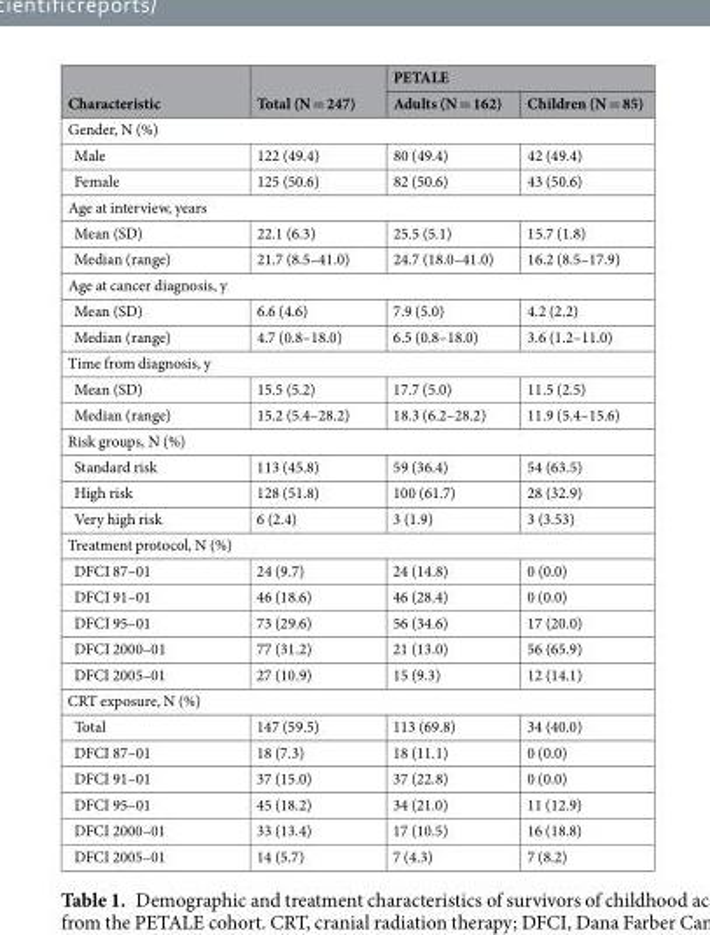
<table><thead><tr><td rowspan="2">Characteristic</td><td rowspan="2">Total (N = 247)</td><td colspan="2">PETALE</td></tr><tr><td>Adults (N = 162)</td><td>Children (N = 85)</td></tr></thead><tbody><tr><td colspan="4">Gender, N (%)</td></tr><tr><td>Male</td><td>122 (49.4)</td><td>80 (49.4)</td><td>42 (49.4)</td></tr><tr><td>Female</td><td>125 (50.6)</td><td>82 (50.6)</td><td>43 (50.6)</td></tr><tr><td colspan="4">Age at interview, years</td></tr><tr><td>Mean (SD)</td><td>22.1 (6.3)</td><td>25.5 (5.1)</td><td>15.7 (1.8)</td></tr><tr><td>Median (range)</td><td>21.7 (8.5–41.0)</td><td>24.7 (18.0–41.0)</td><td>16.2 (8.5–17.9)</td></tr><tr><td colspan="4">Age at cancer diagnosis, y</td></tr><tr><td>Mean (SD)</td><td>6.6 (4.6)</td><td>7.9 (5.0)</td><td>4.2 (2.2)</td></tr><tr><td>Median (range)</td><td>4.7 (0.8–18.0)</td><td>6.5 (0.8–18.0)</td><td>3.6 (1.2–11.0)</td></tr><tr><td colspan="4">Time from diagnosis, y</td></tr><tr><td>Mean (SD)</td><td>15.5 (5.2)</td><td>17.7 (5.0)</td><td>11.5 (2.5)</td></tr><tr><td>Median (range)</td><td>15.2 (5.4–28.2)</td><td>18.3 (6.2–28.2)</td><td>11.9 (5.4–15.6)</td></tr><tr><td colspan="4">Risk groups, N (%)</td></tr><tr><td>Standard risk</td><td>113 (45.8)</td><td>59 (36.4)</td><td>54 (63.5)</td></tr><tr><td>High risk</td><td>128 (51.8)</td><td>100 (61.7)</td><td>28 (32.9)</td></tr><tr><td>Very high risk</td><td>6 (2.4)</td><td>3 (1.9)</td><td>3 (3.53)</td></tr><tr><td colspan="4">Treatment protocol, N (%)</td></tr><tr><td>DFCI 87–01</td><td>24 (9.7)</td><td>24 (14.8)</td><td>0 (0.0)</td></tr><tr><td>DFCI 91–01</td><td>46 (18.6)</td><td>46 (28.4)</td><td>0 (0.0)</td></tr><tr><td>DFCI 95–01</td><td>73 (29.6)</td><td>56 (34.6)</td><td>17 (20.0)</td></tr><tr><td>DFCI 2000–01</td><td>77 (31.2)</td><td>21 (13.0)</td><td>56 (65.9)</td></tr><tr><td>DFCI 2005–01</td><td>27 (10.9)</td><td>15 (9.3)</td><td>12 (14.1)</td></tr><tr><td colspan="4">CRT exposure, N (%)</td></tr><tr><td>Total</td><td>147 (59.5)</td><td>113 (69.8)</td><td>34 (40.0)</td></tr><tr><td>DFCI 87–01</td><td>18 (7.3)</td><td>18 (11.1)</td><td>0 (0.0)</td></tr><tr><td>DFCI 91–01</td><td>37 (15.0)</td><td>37 (22.8)</td><td>0 (0.0)</td></tr><tr><td>DFCI 95–01</td><td>45 (18.2)</td><td>34 (21.0)</td><td>11 (12.9)</td></tr><tr><td>DFCI 2000–01</td><td>33 (13.4)</td><td>17 (10.5)</td><td>16 (18.8)</td></tr><tr><td>DFCI 2005–01</td><td>14 (5.7)</td><td>7 (4.3)</td><td>7 (8.2)</td></tr></tbody></table>